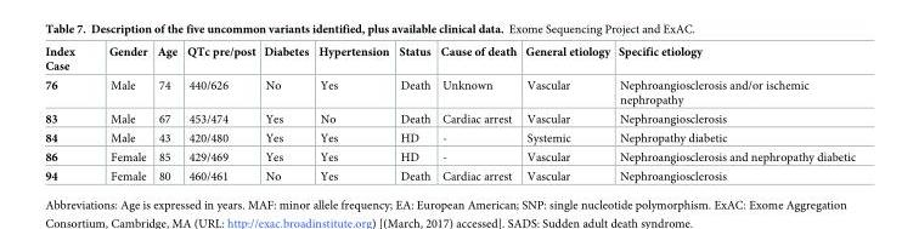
<table><thead><tr><td>Index Case</td><td>Gender</td><td>Age</td><td>QTc pre/post</td><td>Diabetes</td><td>Hypertension</td><td>Status</td><td>Cause of death</td><td>General etiology</td><td>Specific etiology</td></tr></thead><tbody><tr><td>76</td><td>Male</td><td>74</td><td>440/626</td><td>No</td><td>Yes</td><td>Death</td><td>Unknown</td><td>Vascular</td><td>Nephroangiosclerosis and/or ischemic nephropathy</td></tr><tr><td>83</td><td>Male</td><td>67</td><td>453/474</td><td>Yes</td><td>No</td><td>Death</td><td>Cardiac arrest</td><td>Vascular</td><td>Nephroangiosclerosis</td></tr><tr><td>84</td><td>Male</td><td>43</td><td>420/480</td><td>Yes</td><td>Yes</td><td>HD</td><td>-</td><td>Systemic</td><td>Nephropathy diabetic</td></tr><tr><td>86</td><td>Female</td><td>85</td><td>429/469</td><td>Yes</td><td>Yes</td><td>HD</td><td>-</td><td>Vascular</td><td>Nephroangiosclerosis and nephropathy diabetic</td></tr><tr><td>94</td><td>Female</td><td>80</td><td>460/461</td><td>No</td><td>Yes</td><td>Death</td><td>Cardiac arrest</td><td>Vascular</td><td>Nephroangiosclerosis</td></tr></tbody></table>